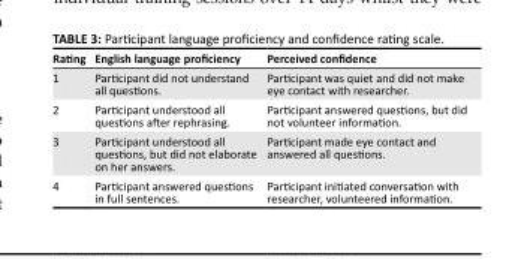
<table><thead><tr><td>Rating</td><td>English language proficiency</td><td>Perceived confidence</td></tr></thead><tbody><tr><td>1</td><td>Participant did not understand all questions.</td><td>Participant was quiet and did not make eye contact with researcher.</td></tr><tr><td>2</td><td>Participant understood all questions after rephrasing.</td><td>Participant answered questions, but did not volunteer information.</td></tr><tr><td>3</td><td>Participant understood all questions, but did not elaborate on her answers.</td><td>Participant made eye contact and answered all questions.</td></tr><tr><td>4</td><td>Participant answered questions in full sentences.</td><td>Participant initiated conversation with researcher, volunteered information.</td></tr></tbody></table>